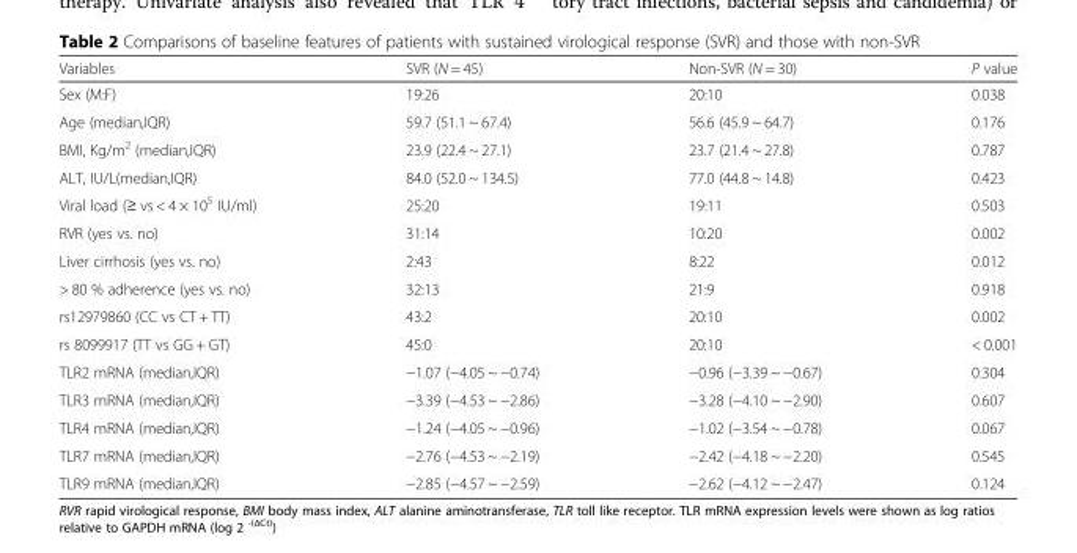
<table><thead><tr><td>Variables</td><td>SVR (N = 45)</td><td>Non-SVR (N = 30)</td><td>P value</td></tr></thead><tbody><tr><td>Sex (M:F)</td><td>19:26</td><td>20:10</td><td>0.038</td></tr><tr><td>Age (median,IQR)</td><td>59.7 (51.1 ~ 67.4)</td><td>56.6 (45.9 ~ 64.7)</td><td>0.176</td></tr><tr><td>BMI, Kg/m<sup>2</sup> (median,IQR)</td><td>23.9 (22.4 ~ 27.1)</td><td>23.7 (21.4 ~ 27.8)</td><td>0.787</td></tr><tr><td>ALT, IU/L(median,IQR)</td><td>84.0 (52.0 ~ 134.5)</td><td>77.0 (44.8 ~ 14.8)</td><td>0.423</td></tr><tr><td>Viral load (≥ vs &lt; 4 × 10<sup>5</sup> IU/ml)</td><td>25:20</td><td>19:11</td><td>0.503</td></tr><tr><td>RVR (yes vs. no)</td><td>31:14</td><td>10:20</td><td>0.002</td></tr><tr><td>Liver cirrhosis (yes vs. no)</td><td>2:43</td><td>8:22</td><td>0.012</td></tr><tr><td>&gt; 80 % adherence (yes vs. no)</td><td>32:13</td><td>21:9</td><td>0.918</td></tr><tr><td>rs12979860 (CC vs CT + TT)</td><td>43:2</td><td>20:10</td><td>0.002</td></tr><tr><td>rs 8099917 (TT vs GG + GT)</td><td>45:0</td><td>20:10</td><td>&lt; 0.001</td></tr><tr><td>TLR2 mRNA (median,IQR)</td><td>−1.07 (−4.05 ~ −0.74)</td><td>−0.96 (−3.39 ~ −0.67)</td><td>0.304</td></tr><tr><td>TLR3 mRNA (median,IQR)</td><td>−3.39 (−4.53 ~ −2.86)</td><td>−3.28 (−4.10 ~ −2.90)</td><td>0.607</td></tr><tr><td>TLR4 mRNA (median,IQR)</td><td>−1.24 (−4.05 ~ −0.96)</td><td>−1.02 (−3.54 ~ −0.78)</td><td>0.067</td></tr><tr><td>TLR7 mRNA (median,IQR)</td><td>−2.76 (−4.53 ~ −2.19)</td><td>−2.42 (−4.18 ~ −2.20)</td><td>0.545</td></tr><tr><td>TLR9 mRNA (median,IQR)</td><td>−2.85 (−4.57 ~ −2.59)</td><td>−2.62 (−4.12 ~ −2.47)</td><td>0.124</td></tr></tbody></table>